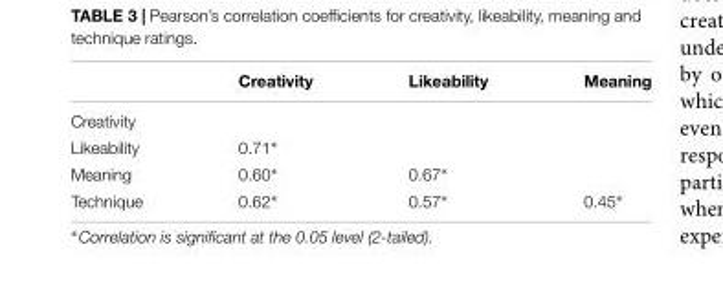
<table><thead><tr><td></td><td>Creativity</td><td>Likeability</td><td>Meaning</td></tr></thead><tbody><tr><td colspan="4">Creativity</td></tr><tr><td>Likeability</td><td>0.71∗</td><td></td><td></td></tr><tr><td>Meaning</td><td>0.60∗</td><td>0.67∗</td><td></td></tr><tr><td>Technique</td><td>0.62∗</td><td>0.57∗</td><td>0.45∗</td></tr></tbody></table>